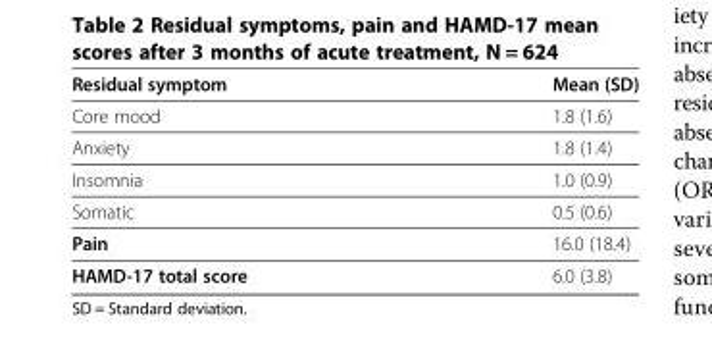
<table><thead><tr><td>Residual symptom</td><td>Mean (SD)</td></tr></thead><tbody><tr><td>Core mood</td><td>1.8 (1.6)</td></tr><tr><td>Anxiety</td><td>1.8 (1.4)</td></tr><tr><td>Insomnia</td><td>1.0 (0.9)</td></tr><tr><td>Somatic</td><td>0.5 (0.6)</td></tr><tr><td>Pain</td><td>16.0 (18.4)</td></tr><tr><td>HAMD-17 total score</td><td>6.0 (3.8)</td></tr></tbody></table>